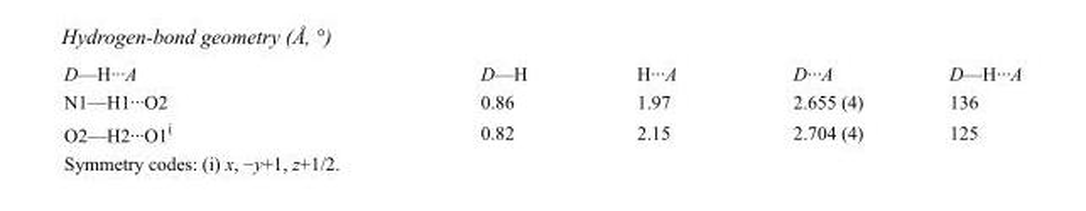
<table><tbody><tr><td>D—H···A</td><td>D—H</td><td>H···A</td><td>D···A</td><td>D—H···A</td></tr><tr><td>N1—H1···O2</td><td>0.86</td><td>1.97</td><td>2.655 (4)</td><td>136</td></tr><tr><td>O2—H2···O1<sup>i</sup></td><td>0.82</td><td>2.15</td><td>2.704 (4)</td><td>125</td></tr></tbody></table>